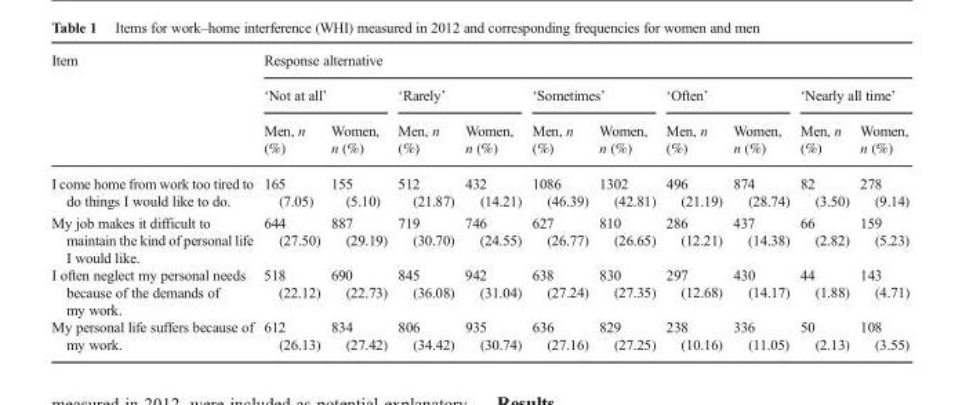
<table><thead><tr><td rowspan="3">Item</td><td colspan="10">Response alternative</td></tr><tr><td colspan="2">‘Not at all’</td><td colspan="2">‘Rarely’</td><td colspan="2">‘Sometimes’</td><td colspan="2">‘Often’</td><td colspan="2">‘Nearly all time’</td></tr><tr><td>Men, n (%)</td><td>Women, n (%)</td><td>Men, n (%)</td><td>Women, n (%)</td><td>Men, n (%)</td><td>Women, n (%)</td><td>Men, n (%)</td><td>Women, n (%)</td><td>Men, n (%)</td><td>Women, n (%)</td></tr></thead><tbody><tr><td>I come home from work too tired to do things I would like to do.</td><td>165 (7.05)</td><td>155 (5.10)</td><td>512 (21.87)</td><td>432 (14.21)</td><td>1086 (46.39)</td><td>1302 (42.81)</td><td>496 (21.19)</td><td>874 (28.74)</td><td>82 (3.50)</td><td>278 (9.14)</td></tr><tr><td>My job makes it difficult to maintain the kind of personal life I would like.</td><td>644 (27.50)</td><td>887 (29.19)</td><td>719 (30.70)</td><td>746 (24.55)</td><td>627 (26.77)</td><td>810 (26.65)</td><td>286 (12.21)</td><td>437 (14.38)</td><td>66 (2.82)</td><td>159 (5.23)</td></tr><tr><td>I often neglect my personal needs because of the demands of my work.</td><td>518 (22.12)</td><td>690 (22.73)</td><td>845 (36.08)</td><td>942 (31.04)</td><td>638 (27.24)</td><td>830 (27.35)</td><td>297 (12.68)</td><td>430 (14.17)</td><td>44 (1.88)</td><td>143 (4.71)</td></tr><tr><td>My personal life suffers because of my work.</td><td>612 (26.13)</td><td>834 (27.42)</td><td>806 (34.42)</td><td>935 (30.74)</td><td>636 (27.16)</td><td>829 (27.25)</td><td>238 (10.16)</td><td>336 (11.05)</td><td>50 (2.13)</td><td>108 (3.55)</td></tr></tbody></table>